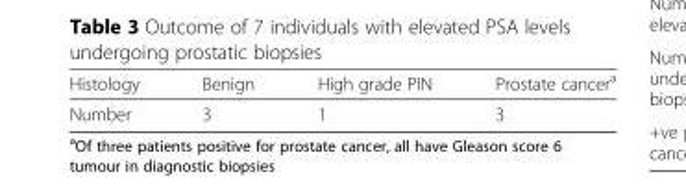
<table><thead><tr><td>Histology</td><td>Benign</td><td>High grade PIN</td><td>Prostate cancer<sup>a</sup></td></tr></thead><tbody><tr><td>Number</td><td>3</td><td>1</td><td>3</td></tr></tbody></table>